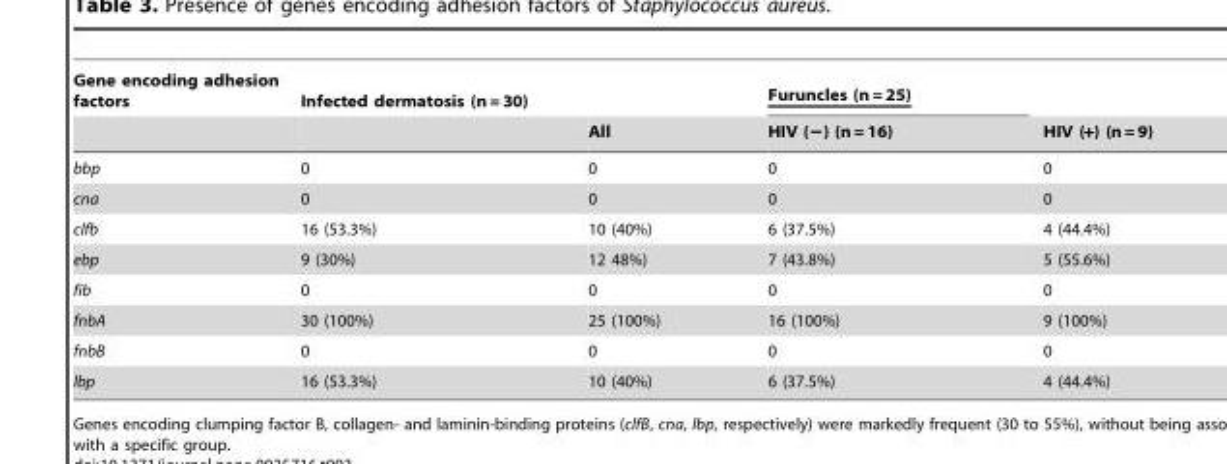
<table><thead><tr><td rowspan="2">Gene encoding adhesion factors</td><td rowspan="2">Infected dermatosis (n = 30)</td><td rowspan="2">All</td><td rowspan="2">Furuncles (n = 25) HIV (−) (n = 16)</td><td rowspan="2">HIV (+) (n = 9)</td></tr><tr></tr></thead><tbody><tr><td>bbp</td><td>0</td><td>0</td><td>0</td><td>0</td></tr><tr><td>cna</td><td>0</td><td>0</td><td>0</td><td>0</td></tr><tr><td>clfb</td><td>16 (53.3%)</td><td>10 (40%)</td><td>6 (37.5%)</td><td>4 (44.4%)</td></tr><tr><td>ebp</td><td>9 (30%)</td><td>12 48%)</td><td>7 (43.8%)</td><td>5 (55.6%)</td></tr><tr><td>fib</td><td>0</td><td>0</td><td>0</td><td>0</td></tr><tr><td>fnbA</td><td>30 (100%)</td><td>25 (100%)</td><td>16 (100%)</td><td>9 (100%)</td></tr><tr><td>fnbB</td><td>0</td><td>0</td><td>0</td><td>0</td></tr><tr><td>lbp</td><td>16 (53.3%)</td><td>10 (40%)</td><td>6 (37.5%)</td><td>4 (44.4%)</td></tr></tbody></table>